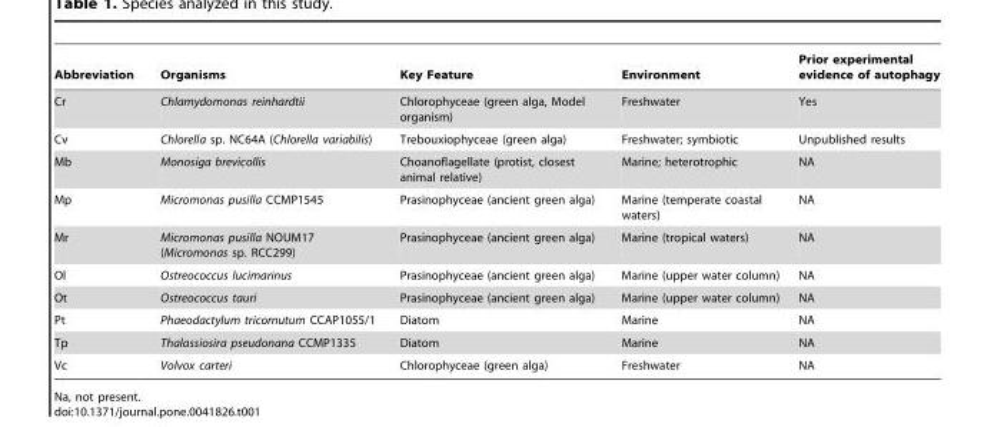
<table><thead><tr><td>Abbreviation</td><td>Organisms</td><td>Key Feature</td><td>Environment</td><td>Prior experimental evidence of autophagy</td></tr></thead><tbody><tr><td>Cr</td><td>Chlamydomonas reinhardtii</td><td>Chlorophyceae (green alga, Model organism)</td><td>Freshwater</td><td>Yes</td></tr><tr><td>Cv</td><td>Chlorella sp. NC64A (Chlorella variabilis)</td><td>Trebouxiophyceae (green alga)</td><td>Freshwater; symbiotic</td><td>Unpublished results</td></tr><tr><td>Mb</td><td>Monosiga brevicollis</td><td>Choanoflagellate (protist, closest animal relative)</td><td>Marine; heterotrophic</td><td>NA</td></tr><tr><td>Mp</td><td>Micromonas pusilla CCMP1545</td><td>Prasinophyceae (ancient green alga)</td><td>Marine (temperate coastal waters)</td><td>NA</td></tr><tr><td>Mr</td><td>Micromonas pusilla NOUM17 (Micromonas sp. RCC299)</td><td>Prasinophyceae (ancient green alga)</td><td>Marine (tropical waters)</td><td>NA</td></tr><tr><td>Ol</td><td>Ostreococcus lucimarinus</td><td>Prasinophyceae (ancient green alga)</td><td>Marine (upper water column)</td><td>NA</td></tr><tr><td>Ot</td><td>Ostreococcus tauri</td><td>Prasinophyceae (ancient green alga)</td><td>Marine (upper water column)</td><td>NA</td></tr><tr><td>Pt</td><td>Phaeodactylum tricornutum CCAP1055/1</td><td>Diatom</td><td>Marine</td><td>NA</td></tr><tr><td>Tp</td><td>Thalassiosira pseudonana CCMP1335</td><td>Diatom</td><td>Marine</td><td>NA</td></tr><tr><td>Vc</td><td>Volvox carteri</td><td>Chlorophyceae (green alga)</td><td>Freshwater</td><td>NA</td></tr></tbody></table>